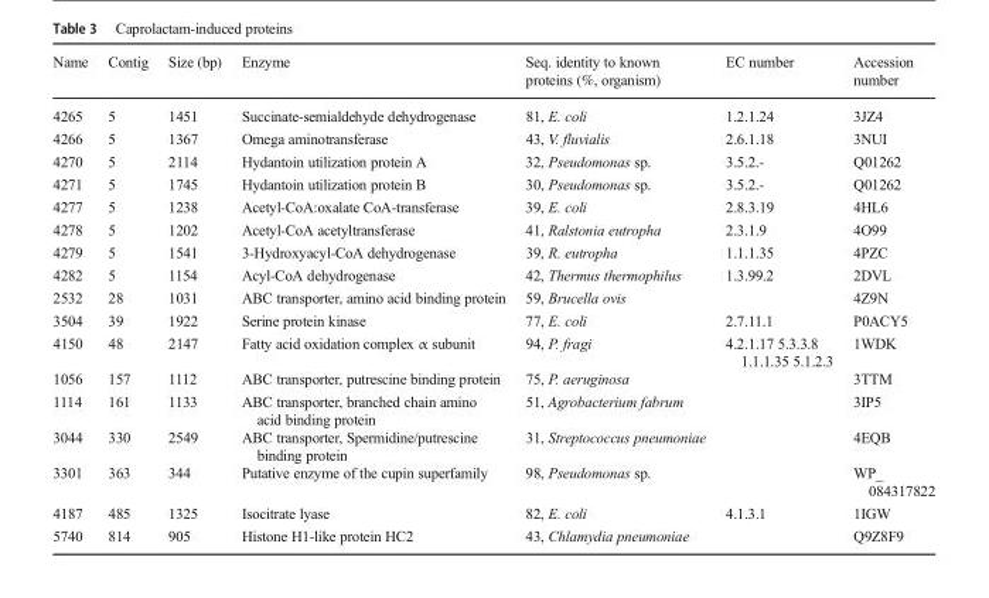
<table><thead><tr><td>Name</td><td>Contig</td><td>Size (bp)</td><td>Enzyme</td><td>Seq. identity to known proteins (%, organism)</td><td>EC number</td><td>Accession number</td></tr></thead><tbody><tr><td>4265</td><td>5</td><td>1451</td><td>Succinate-semialdehyde dehydrogenase</td><td>81, E. coli</td><td>1.2.1.24</td><td>3JZ4</td></tr><tr><td>4266</td><td>5</td><td>1367</td><td>Omega aminotransferase</td><td>43, V. fluvialis</td><td>2.6.1.18</td><td>3NUI</td></tr><tr><td>4270</td><td>5</td><td>2114</td><td>Hydantoin utilization protein A</td><td>32, Pseudomonas sp.</td><td>3.5.2.-</td><td>Q01262</td></tr><tr><td>4271</td><td>5</td><td>1745</td><td>Hydantoin utilization protein B</td><td>30, Pseudomonas sp.</td><td>3.5.2.-</td><td>Q01262</td></tr><tr><td>4277</td><td>5</td><td>1238</td><td>Acetyl-CoA:oxalate CoA-transferase</td><td>39, E. coli</td><td>2.8.3.19</td><td>4HL6</td></tr><tr><td>4278</td><td>5</td><td>1202</td><td>Acetyl-CoA acetyltransferase</td><td>41, Ralstonia eutropha</td><td>2.3.1.9</td><td>4O99</td></tr><tr><td>4279</td><td>5</td><td>1541</td><td>3-Hydroxyacyl-CoA dehydrogenase</td><td>39, R. eutropha</td><td>1.1.1.35</td><td>4PZC</td></tr><tr><td>4282</td><td>5</td><td>1154</td><td>Acyl-CoA dehydrogenase</td><td>42, Thermus thermophilus</td><td>1.3.99.2</td><td>2DVL</td></tr><tr><td>2532</td><td>28</td><td>1031</td><td>ABC transporter, amino acid binding protein</td><td>59, Brucella ovis</td><td></td><td>4Z9N</td></tr><tr><td>3504</td><td>39</td><td>1922</td><td>Serine protein kinase</td><td>77, E. coli</td><td>2.7.11.1</td><td>P0ACY5</td></tr><tr><td>4150</td><td>48</td><td>2147</td><td>Fatty acid oxidation complex α subunit</td><td>94, P. fragi</td><td>4.2.1.17 5.3.3.8 1.1.1.35 5.1.2.3</td><td>1WDK</td></tr><tr><td>1056</td><td>157</td><td>1112</td><td>ABC transporter, putrescine binding protein</td><td>75, P. aeruginosa</td><td></td><td>3TTM</td></tr><tr><td>1114</td><td>161</td><td>1133</td><td>ABC transporter, branched chain amino acid binding protein</td><td>51, Agrobacterium fabrum</td><td></td><td>3IP5</td></tr><tr><td>3044</td><td>330</td><td>2549</td><td>ABC transporter, Spermidine/putrescine binding protein</td><td>31, Streptococcus pneumoniae</td><td></td><td>4EQB</td></tr><tr><td>3301</td><td>363</td><td>344</td><td>Putative enzyme of the cupin superfamily</td><td>98, Pseudomonas sp.</td><td></td><td>WP_ 084317822</td></tr><tr><td>4187</td><td>485</td><td>1325</td><td>Isocitrate lyase</td><td>82, E. coli</td><td>4.1.3.1</td><td>1IGW</td></tr><tr><td>5740</td><td>814</td><td>905</td><td>Histone H1-like protein HC2</td><td>43, Chlamydia pneumoniae</td><td></td><td>Q9Z8F9</td></tr></tbody></table>